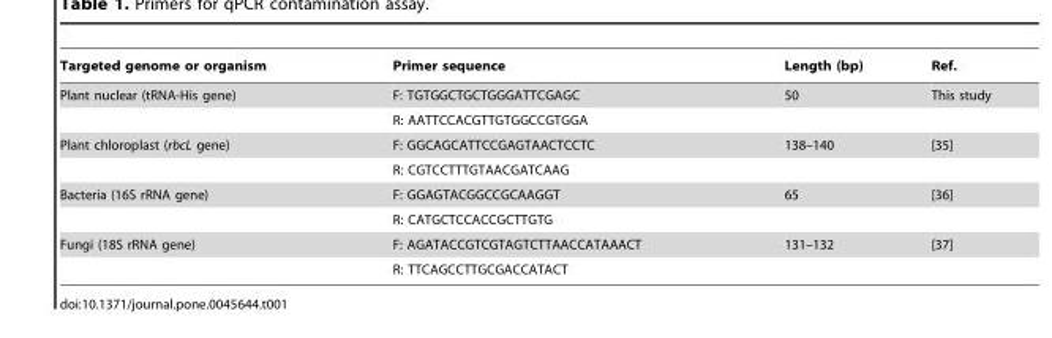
<table><thead><tr><td>Targeted genome or organism</td><td>Primer sequence</td><td>Length (bp)</td><td>Ref.</td></tr></thead><tbody><tr><td rowspan="2">Plant nuclear (tRNA-His gene)</td><td>F: TGTGGCTGCTGGGATTCGAGC</td><td>50</td><td>This study</td></tr><tr><td>R: AATTCCACGTTGTGGCCGTGGA</td><td></td><td></td></tr><tr><td rowspan="2">Plant chloroplast (rbcL gene)</td><td>F: GGCAGCATTCCGAGTAACTCCTC</td><td>138–140</td><td>[35]</td></tr><tr><td>R: CGTCCTTTGTAACGATCAAG</td><td></td><td></td></tr><tr><td rowspan="2">Bacteria (16S rRNA gene)</td><td>F: GGAGTACGGCCGCAAGGT</td><td>65</td><td>[36]</td></tr><tr><td>R: CATGCTCCACCGCTTGTG</td><td></td><td></td></tr><tr><td rowspan="2">Fungi (18S rRNA gene)</td><td>F: AGATACCGTCGTAGTCTTAACCATAAACT</td><td>131–132</td><td>[37]</td></tr><tr><td>R: TTCAGCCTTGCGACCATACT</td><td></td><td></td></tr></tbody></table>